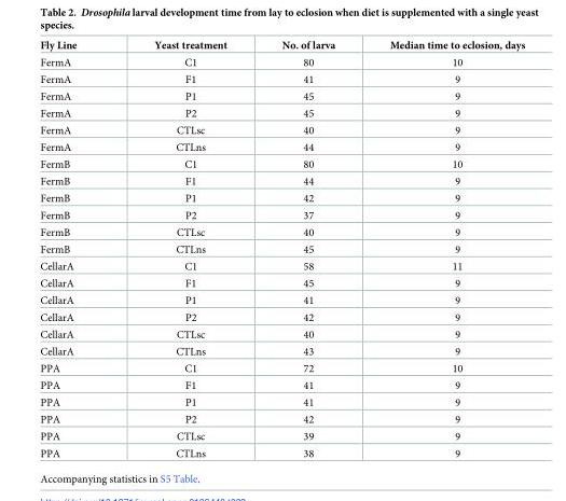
<table><thead><tr><td>Fly Line</td><td>Yeast treatment</td><td>No. of larva</td><td>Median time to eclosion, days</td></tr></thead><tbody><tr><td>FermA</td><td>C1</td><td>80</td><td>10</td></tr><tr><td>FermA</td><td>F1</td><td>41</td><td>9</td></tr><tr><td>FermA</td><td>P1</td><td>45</td><td>9</td></tr><tr><td>FermA</td><td>P2</td><td>45</td><td>9</td></tr><tr><td>FermA</td><td>CTLsc</td><td>40</td><td>9</td></tr><tr><td>FermA</td><td>CTLns</td><td>44</td><td>9</td></tr><tr><td>FermB</td><td>C1</td><td>80</td><td>10</td></tr><tr><td>FermB</td><td>F1</td><td>44</td><td>9</td></tr><tr><td>FermB</td><td>P1</td><td>42</td><td>9</td></tr><tr><td>FermB</td><td>P2</td><td>37</td><td>9</td></tr><tr><td>FermB</td><td>CTLsc</td><td>40</td><td>9</td></tr><tr><td>FermB</td><td>CTLns</td><td>45</td><td>9</td></tr><tr><td>CellarA</td><td>C1</td><td>58</td><td>11</td></tr><tr><td>CellarA</td><td>F1</td><td>45</td><td>9</td></tr><tr><td>CellarA</td><td>P1</td><td>41</td><td>9</td></tr><tr><td>CellarA</td><td>P2</td><td>42</td><td>9</td></tr><tr><td>CellarA</td><td>CTLsc</td><td>40</td><td>9</td></tr><tr><td>CellarA</td><td>CTLns</td><td>43</td><td>9</td></tr><tr><td>PPA</td><td>C1</td><td>72</td><td>10</td></tr><tr><td>PPA</td><td>F1</td><td>41</td><td>9</td></tr><tr><td>PPA</td><td>P1</td><td>41</td><td>9</td></tr><tr><td>PPA</td><td>P2</td><td>42</td><td>9</td></tr><tr><td>PPA</td><td>CTLsc</td><td>39</td><td>9</td></tr><tr><td>PPA</td><td>CTLns</td><td>38</td><td>9</td></tr></tbody></table>